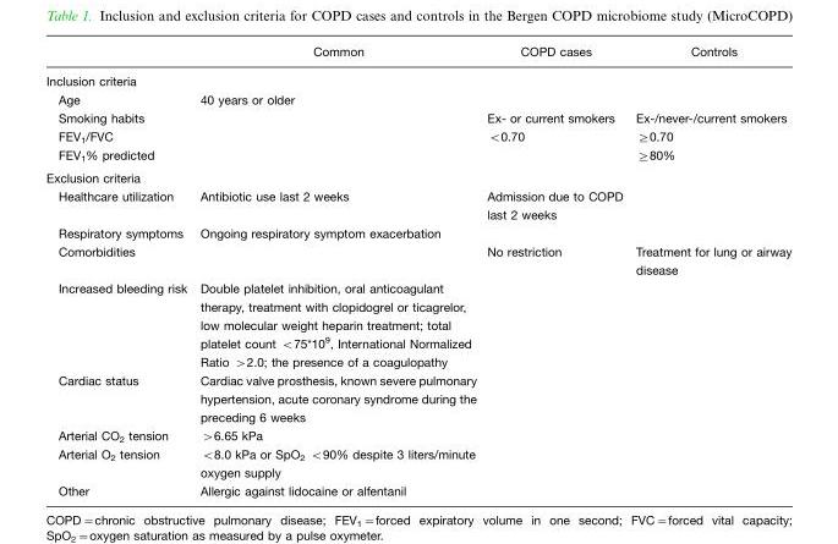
<table><thead><tr><td></td><td>Common</td><td>COPD cases</td><td>Controls</td></tr></thead><tbody><tr><td colspan="4">Inclusion criteria</td></tr><tr><td>Age</td><td>40 years or older</td><td></td><td></td></tr><tr><td>Smoking habits</td><td></td><td>Ex- or current smokers</td><td>Ex-/never-/current smokers</td></tr><tr><td>FEV<sub>1</sub>/FVC</td><td></td><td>&lt;0.70</td><td>≥0.70</td></tr><tr><td>FEV<sub>1</sub>% predicted</td><td></td><td></td><td>≥80%</td></tr><tr><td colspan="4">Exclusion criteria</td></tr><tr><td>Healthcare utilization</td><td>Antibiotic use last 2 weeks</td><td>Admission due to COPD last 2 weeks</td><td></td></tr><tr><td>Respiratory symptoms</td><td>Ongoing respiratory symptom exacerbation</td><td></td><td></td></tr><tr><td>Comorbidities</td><td></td><td>No restriction</td><td>Treatment for lung or airway disease</td></tr><tr><td>Increased bleeding risk</td><td>Double platelet inhibition, oral anticoagulant therapy, treatment with clopidogrel or ticagrelor, low molecular weight heparin treatment; total platelet count &lt;75*10<sup>9</sup>, International Normalized Ratio &gt;2.0; the presence of a coagulopathy</td><td></td><td></td></tr><tr><td>Cardiac status</td><td>Cardiac valve prosthesis, known severe pulmonary hypertension, acute coronary syndrome during the preceding 6 weeks</td><td></td><td></td></tr><tr><td>Arterial CO<sub>2</sub> tension</td><td>&gt;6.65 kPa</td><td></td><td></td></tr><tr><td>Arterial O<sub>2</sub> tension</td><td>&lt;8.0 kPa or SpO<sub>2</sub> &lt;90% despite 3 liters/minute oxygen supply</td><td></td><td></td></tr><tr><td>Other</td><td>Allergic against lidocaine or alfentanil</td><td></td><td></td></tr></tbody></table>